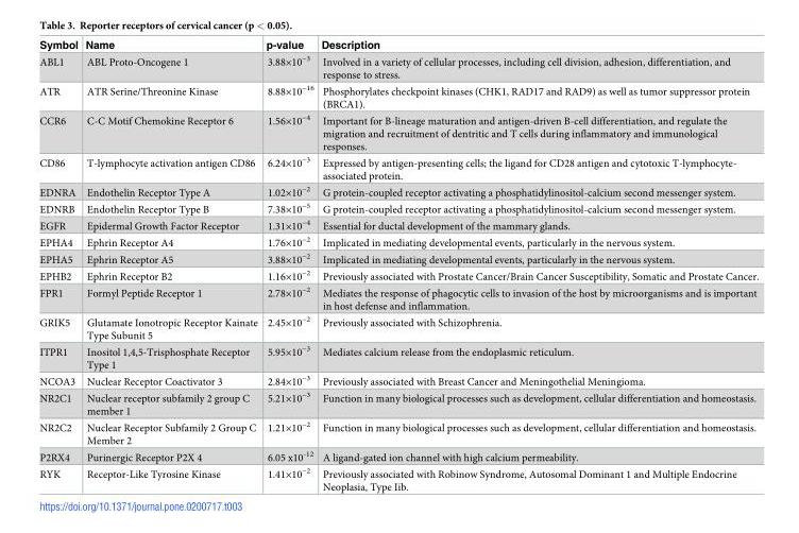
<table><thead><tr><td>Symbol</td><td>Name</td><td>p-value</td><td>Description</td></tr></thead><tbody><tr><td>ABL1</td><td>ABL Proto-Oncogene 1</td><td>3.88×10<sup>−3</sup></td><td>Involved in a variety of cellular processes, including cell division, adhesion, differentiation, and response to stress.</td></tr><tr><td>ATR</td><td>ATR Serine/Threonine Kinase</td><td>8.88×10<sup>−16</sup></td><td>Phosphorylates checkpoint kinases (CHK1, RAD17 and RAD9) as well as tumor suppressor protein (BRCA1).</td></tr><tr><td>CCR6</td><td>C-C Motif Chemokine Receptor 6</td><td>1.56×10<sup>−4</sup></td><td>Important for B-lineage maturation and antigen-driven B-cell differentiation, and regulate the migration and recruitment of dentritic and T cells during inflammatory and immunological responses.</td></tr><tr><td>CD86</td><td>T-lymphocyte activation antigen CD86</td><td>6.24×10<sup>−3</sup></td><td>Expressed by antigen-presenting cells; the ligand for CD28 antigen and cytotoxic T-lymphocyte- associated protein.</td></tr><tr><td>EDNRA</td><td>Endothelin Receptor Type A</td><td>1.02×10<sup>−2</sup></td><td>G protein-coupled receptor activating a phosphatidylinositol-calcium second messenger system.</td></tr><tr><td>EDNRB</td><td>Endothelin Receptor Type B</td><td>7.38×10<sup>−5</sup></td><td>G protein-coupled receptor activating a phosphatidylinositol-calcium second messenger system.</td></tr><tr><td>EGFR</td><td>Epidermal Growth Factor Receptor</td><td>1.31×10<sup>−4</sup></td><td>Essential for ductal development of the mammary glands.</td></tr><tr><td>EPHA4</td><td>Ephrin Receptor A4</td><td>1.76×10<sup>−2</sup></td><td>Implicated in mediating developmental events, particularly in the nervous system.</td></tr><tr><td>EPHA5</td><td>Ephrin Receptor A5</td><td>3.88×10<sup>−2</sup></td><td>Implicated in mediating developmental events, particularly in the nervous system.</td></tr><tr><td>EPHB2</td><td>Ephrin Receptor B2</td><td>1.16×10<sup>−2</sup></td><td>Previously associated with Prostate Cancer/Brain Cancer Susceptibility, Somatic and Prostate Cancer.</td></tr><tr><td>FPR1</td><td>Formyl Peptide Receptor 1</td><td>2.78×10<sup>−2</sup></td><td>Mediates the response of phagocytic cells to invasion of the host by microorganisms and is important in host defense and inflammation.</td></tr><tr><td>GRIK5</td><td>Glutamate Ionotropic Receptor Kainate Type Subunit 5</td><td>2.45×10<sup>−2</sup></td><td>Previously associated with Schizophrenia.</td></tr><tr><td>ITPR1</td><td>Inositol 1,4,5-Trisphosphate Receptor Type 1</td><td>5.95×10<sup>−3</sup></td><td>Mediates calcium release from the endoplasmic reticulum.</td></tr><tr><td>NCOA3</td><td>Nuclear Receptor Coactivator 3</td><td>2.84×10<sup>−3</sup></td><td>Previously associated with Breast Cancer and Meningothelial Meningioma.</td></tr><tr><td>NR2C1</td><td>Nuclear receptor subfamily 2 group C member 1</td><td>5.21×10<sup>−3</sup></td><td>Function in many biological processes such as development, cellular differentiation and homeostasis.</td></tr><tr><td>NR2C2</td><td>Nuclear Receptor Subfamily 2 Group C Member 2</td><td>1.21×10<sup>−2</sup></td><td>Function in many biological processes such as development, cellular differentiation and homeostasis.</td></tr><tr><td>P2RX4</td><td>Purinergic Receptor P2X 4</td><td>6.05 x10<sup>-12</sup></td><td>A ligand-gated ion channel with high calcium permeability.</td></tr><tr><td>RYK</td><td>Receptor-Like Tyrosine Kinase</td><td>1.41×10<sup>−2</sup></td><td>Previously associated with Robinow Syndrome, Autosomal Dominant 1 and Multiple Endocrine Neoplasia, Type Iib.</td></tr></tbody></table>